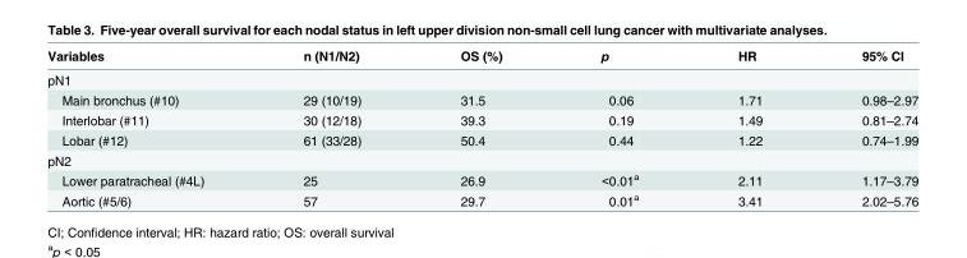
<table><thead><tr><td>Variables</td><td>n (N1/N2)</td><td>OS (%)</td><td>p</td><td>HR</td><td>95% CI</td></tr></thead><tbody><tr><td colspan="6">pN1</td></tr><tr><td>Main bronchus (#10)</td><td>29 (10/19)</td><td>31.5</td><td>0.06</td><td>1.71</td><td>0.98–2.97</td></tr><tr><td>Interlobar (#11)</td><td>30 (12/18)</td><td>39.3</td><td>0.19</td><td>1.49</td><td>0.81–2.74</td></tr><tr><td>Lobar (#12)</td><td>61 (33/28)</td><td>50.4</td><td>0.44</td><td>1.22</td><td>0.74–1.99</td></tr><tr><td colspan="6">pN2</td></tr><tr><td>Lower paratracheal (#4L)</td><td>25</td><td>26.9</td><td>&lt;0.01<sup>a</sup></td><td>2.11</td><td>1.17–3.79</td></tr><tr><td>Aortic (#5/6)</td><td>57</td><td>29.7</td><td>0.01<sup>a</sup></td><td>3.41</td><td>2.02–5.76</td></tr></tbody></table>